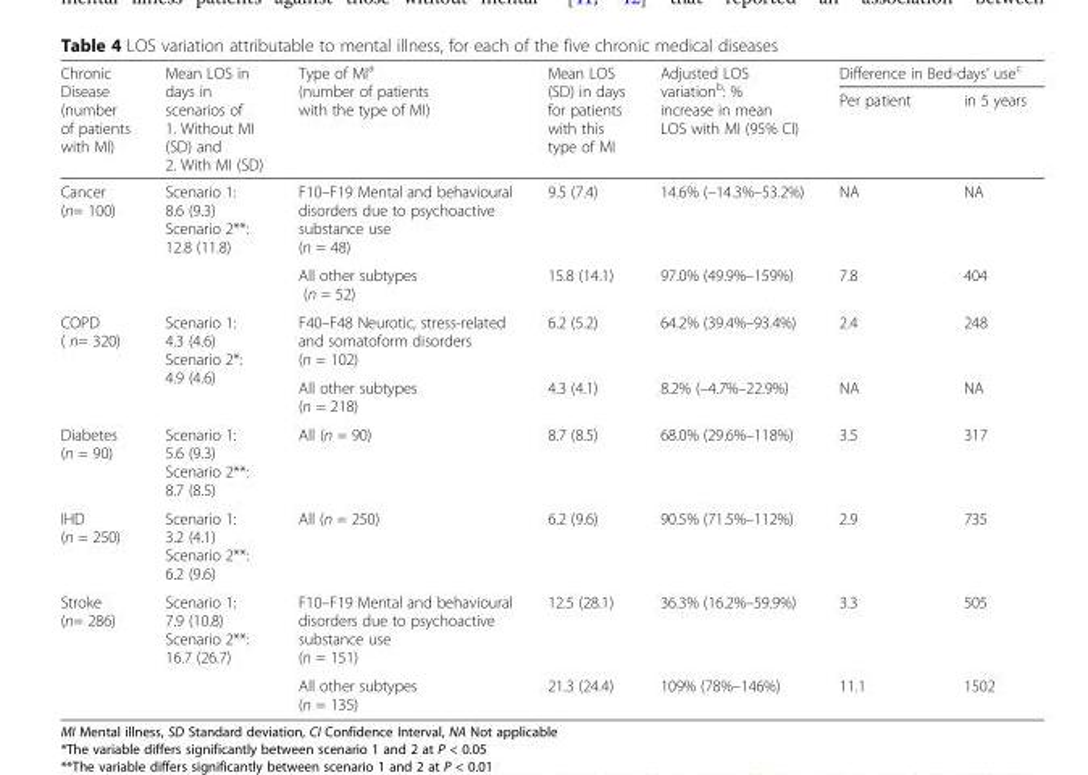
<table><thead><tr><td rowspan="2">Chronic Disease (number of patients with MI)</td><td rowspan="2">Mean LOS in days in scenarios of 1. Without MI (SD) and 2. With MI (SD)</td><td rowspan="2">Type of MI<sup>a</sup> (number of patients with the type of MI)</td><td rowspan="2">Mean LOS (SD) in days for patients with this type of MI</td><td rowspan="2">Adjusted LOS variation<sup>b</sup>: % increase in mean LOS with MI (95% CI)</td><td colspan="2">Difference in Bed-days’ use<sup>c</sup></td></tr><tr><td>Per patient</td><td>in 5 years</td></tr></thead><tbody><tr><td rowspan="2">Cancer (n= 100)</td><td rowspan="2">Scenario 1: 8.6 (9.3) Scenario 2**: 12.8 (11.8)</td><td>F10–F19 Mental and behavioural disorders due to psychoactive substance use (n = 48)</td><td>9.5 (7.4)</td><td>14.6% (–14.3%–53.2%)</td><td>NA</td><td>NA</td></tr><tr><td>All other subtypes (n = 52)</td><td>15.8 (14.1)</td><td>97.0% (49.9%–159%)</td><td>7.8</td><td>404</td></tr><tr><td rowspan="2">COPD ( n= 320)</td><td rowspan="2">Scenario 1: 4.3 (4.6) Scenario 2*: 4.9 (4.6)</td><td>F40–F48 Neurotic, stress-related and somatoform disorders (n = 102)</td><td>6.2 (5.2)</td><td>64.2% (39.4%–93.4%)</td><td>2.4</td><td>248</td></tr><tr><td>All other subtypes (n = 218)</td><td>4.3 (4.1)</td><td>8.2% (–4.7%–22.9%)</td><td>NA</td><td>NA</td></tr><tr><td>Diabetes (n = 90)</td><td>Scenario 1: 5.6 (9.3) Scenario 2**: 8.7 (8.5)</td><td>All (n = 90)</td><td>8.7 (8.5)</td><td>68.0% (29.6%–118%)</td><td>3.5</td><td>317</td></tr><tr><td>IHD (n = 250)</td><td>Scenario 1: 3.2 (4.1) Scenario 2**: 6.2 (9.6)</td><td>All (n = 250)</td><td>6.2 (9.6)</td><td>90.5% (71.5%–112%)</td><td>2.9</td><td>735</td></tr><tr><td rowspan="2">Stroke (n= 286)</td><td rowspan="2">Scenario 1: 7.9 (10.8) Scenario 2**: 16.7 (26.7)</td><td>F10–F19 Mental and behavioural disorders due to psychoactive substance use (n = 151)</td><td>12.5 (28.1)</td><td>36.3% (16.2%–59.9%)</td><td>3.3</td><td>505</td></tr><tr><td>All other subtypes (n = 135)</td><td>21.3 (24.4)</td><td>109% (78%–146%)</td><td>11.1</td><td>1502</td></tr></tbody></table>